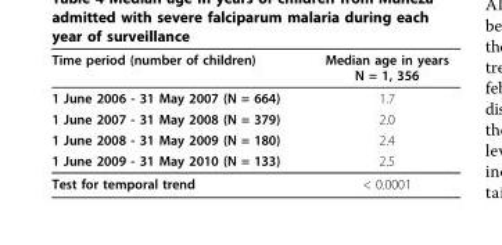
<table><thead><tr><td>Time period (number of children)</td><td>Median age in years N = 1, 356</td></tr></thead><tbody><tr><td>1 June 2006 - 31 May 2007 (N = 664)</td><td>1.7</td></tr><tr><td>1 June 2007 - 31 May 2008 (N = 379)</td><td>2.0</td></tr><tr><td>1 June 2008 - 31 May 2009 (N = 180)</td><td>2.4</td></tr><tr><td>1 June 2009 - 31 May 2010 (N = 133)</td><td>2.5</td></tr><tr><td>Test for temporal trend</td><td>&lt; 0.0001</td></tr></tbody></table>